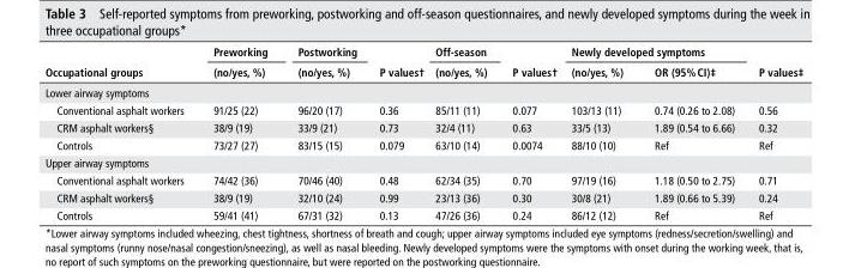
<table><thead><tr><td rowspan="2">Occupational groups</td><td rowspan="2">Preworking (no/yes, %)</td><td rowspan="2">Postworking (no/yes, %)</td><td rowspan="2">P values†</td><td rowspan="2">Off-season (no/yes, %)</td><td rowspan="2">P values†</td><td colspan="2">newly developed symptoms</td><td rowspan="2">P values‡</td></tr><tr><td>(no/yes, %)</td><td>Or (95% CI)‡</td></tr></thead><tbody><tr><td colspan="9">Lower airway symptoms</td></tr><tr><td>Conventional asphalt workers</td><td>91/25 (22)</td><td>96/20 (17)</td><td>0.36</td><td>85/11 (11)</td><td>0.077</td><td>103/13 (11)</td><td>0.74 (0.26 to 2.08)</td><td>0.56</td></tr><tr><td>CRM asphalt workers§</td><td>38/9 (19)</td><td>33/9 (21)</td><td>0.73</td><td>32/4 (11)</td><td>0.63</td><td>33/5 (13)</td><td>1.89 (0.54 to 6.66)</td><td>0.32</td></tr><tr><td>Controls</td><td>73/27 (27)</td><td>83/15 (15)</td><td>0.079</td><td>63/10 (14)</td><td>0.0074</td><td>88/10 (10)</td><td>Ref</td><td>Ref</td></tr><tr><td colspan="9">Upper airway symptoms</td></tr><tr><td>Conventional asphalt workers</td><td>74/42 (36)</td><td>70/46 (40)</td><td>0.48</td><td>62/34 (35)</td><td>0.70</td><td>97/19 (16)</td><td>1.18 (0.50 to 2.75)</td><td>0.71</td></tr><tr><td>CRM asphalt workers§</td><td>38/9 (19)</td><td>32/10 (24)</td><td>0.99</td><td>23/13 (36)</td><td>0.30</td><td>30/8 (21)</td><td>1.89 (0.66 to 5.39)</td><td>0.24</td></tr><tr><td>Controls</td><td>59/41 (41)</td><td>67/31 (32)</td><td>0.13</td><td>47/26 (36)</td><td>0.24</td><td>86/12 (12)</td><td>Ref</td><td>Ref</td></tr></tbody></table>